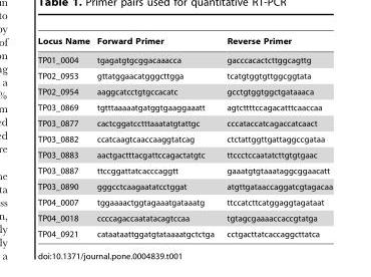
<table><thead><tr><td>Locus Name</td><td>Forward Primer</td><td>Reverse Primer</td></tr></thead><tbody><tr><td>TP01_0004</td><td>tgagatgtgcggacaaacca</td><td>gacccacactcttggcagttg</td></tr><tr><td>TP02_0953</td><td>gttatggaacatgggcttgga</td><td>tcatgtggtgttggcggtata</td></tr><tr><td>TP02_0954</td><td>aaggcatcctgtgccacatc</td><td>gcctgtggtggctgataaaca</td></tr><tr><td>TP03_0869</td><td>tgtttaaaaatgatggtgaaggaaatt</td><td>agtcttttccagacatttcaaccaa</td></tr><tr><td>TP03_0877</td><td>cactcggatcctttaaatatgtattgc</td><td>cccataccatcagaccatcaact</td></tr><tr><td>TP03_0882</td><td>ccatcaagtcaaccaaggtatcag</td><td>ctctattggttgattaggccgataa</td></tr><tr><td>TP03_0883</td><td>aactgactttacgattccagactatgtc</td><td>ttccctccaatatcttgtgtgaac</td></tr><tr><td>TP03_0887</td><td>ttccggattatcacccaggtt</td><td>gaaatgtgtaaataggcggaacatt</td></tr><tr><td>TP03_0890</td><td>gggcctcaagaatatcctggat</td><td>atgttgataaccaggatcgtagacaa</td></tr><tr><td>TP04_0007</td><td>tggaaaactggtagaaatgataaatg</td><td>ttccatcttcatggaggtagataat</td></tr><tr><td>TP04_0018</td><td>ccccagaccaatatacagtccaa</td><td>tgtagcgaaaaccaccgtatga</td></tr><tr><td>TP04_0921</td><td>cataataattggatgtataaaatgctctga</td><td>cctgacttatcaccaggcttatca</td></tr></tbody></table>